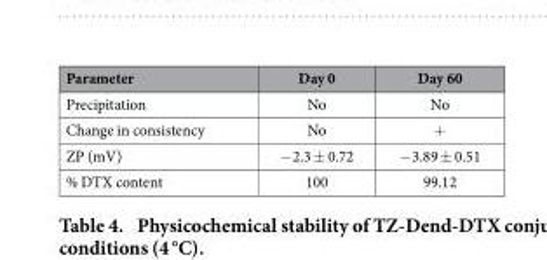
<table><thead><tr><td>Parameter</td><td>Day 0</td><td>Day 60</td></tr></thead><tbody><tr><td>Precipitation</td><td>No</td><td>No</td></tr><tr><td>Change in consistency</td><td>No</td><td>+</td></tr><tr><td>ZP (mV)</td><td>− 2.3 ± 0.72</td><td>− 3.89 ± 0.51</td></tr><tr><td>% DTX content</td><td>100</td><td>99.12</td></tr></tbody></table>